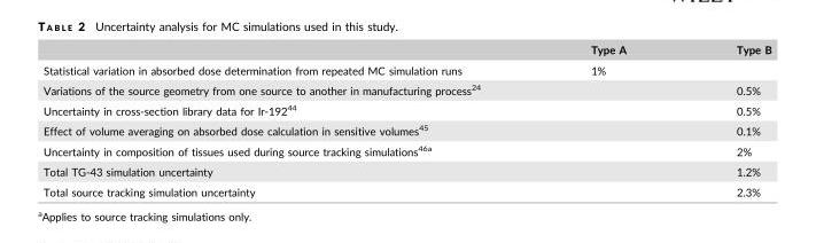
<table><thead><tr><td></td><td>Type A</td><td>Type B</td></tr></thead><tbody><tr><td>Statistical variation in absorbed dose determination from repeated MC simulation runs</td><td>1%</td><td></td></tr><tr><td>Variations of the source geometry from one source to another in manufacturing process<sup>24</sup></td><td></td><td>0.5%</td></tr><tr><td>Uncertainty in cross-section library data for Ir-192<sup>44</sup></td><td></td><td>0.5%</td></tr><tr><td>Effect of volume averaging on absorbed dose calculation in sensitive volumes<sup>45</sup></td><td></td><td>0.1%</td></tr><tr><td>Uncertainty in composition of tissues used during source tracking simulations46a</td><td></td><td>2%</td></tr><tr><td>Total TG-43 simulation uncertainty</td><td></td><td>1.2%</td></tr><tr><td>Total source tracking simulation uncertainty</td><td></td><td>2.3%</td></tr></tbody></table>